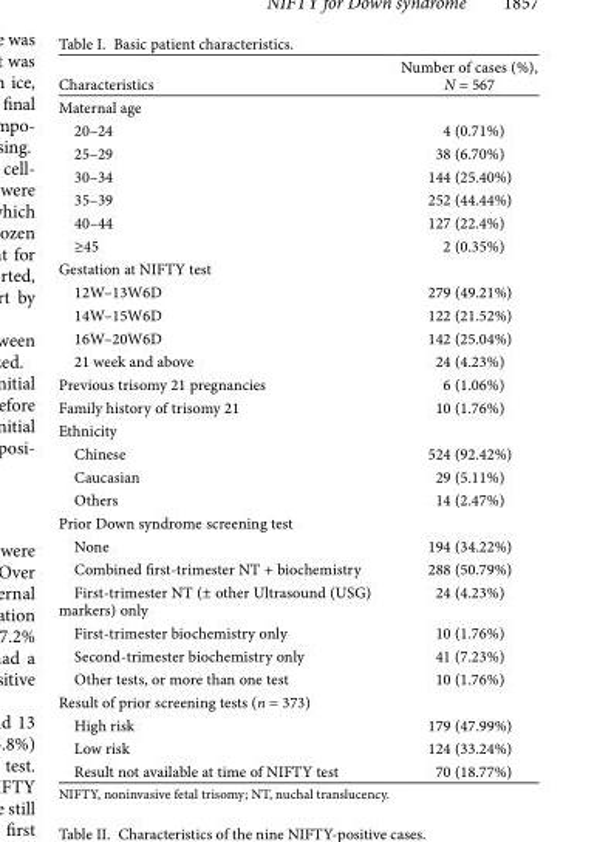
<table><thead><tr><td>Characteristics</td><td>Number of cases (%), N = 567</td></tr></thead><tbody><tr><td colspan="2">Maternal age</td></tr><tr><td>20–24</td><td>4 (0.71%)</td></tr><tr><td>25–29</td><td>38 (6.70%)</td></tr><tr><td>30–34</td><td>144 (25.40%)</td></tr><tr><td>35–39</td><td>252 (44.44%)</td></tr><tr><td>40–44</td><td>127 (22.4%)</td></tr><tr><td>≥45</td><td>2 (0.35%)</td></tr><tr><td colspan="2">Gestation at NIFTY test</td></tr><tr><td>12W–13W6D</td><td>279 (49.21%)</td></tr><tr><td>14W–15W6D</td><td>122 (21.52%)</td></tr><tr><td>16W–20W6D</td><td>142 (25.04%)</td></tr><tr><td>21 week and above</td><td>24 (4.23%)</td></tr><tr><td>Previous trisomy 21 pregnancies</td><td>6 (1.06%)</td></tr><tr><td>Family history of trisomy 21</td><td>10 (1.76%)</td></tr><tr><td colspan="2">Ethnicity</td></tr><tr><td>Chinese</td><td>524 (92.42%)</td></tr><tr><td>Caucasian</td><td>29 (5.11%)</td></tr><tr><td>Others</td><td>14 (2.47%)</td></tr><tr><td colspan="2">Prior Down syndrome screening test</td></tr><tr><td>None</td><td>194 (34.22%)</td></tr><tr><td>Combined first-trimester NT + biochemistry</td><td>288 (50.79%)</td></tr><tr><td>First-trimester NT (± other Ultrasound (USG) markers) only</td><td>24 (4.23%)</td></tr><tr><td>First-trimester biochemistry only</td><td>10 (1.76%)</td></tr><tr><td>Second-trimester biochemistry only</td><td>41 (7.23%)</td></tr><tr><td>Other tests, or more than one test</td><td>10 (1.76%)</td></tr><tr><td colspan="2">Result of prior screening tests (n = 373)</td></tr><tr><td>High risk</td><td>179 (47.99%)</td></tr><tr><td>Low risk</td><td>124 (33.24%)</td></tr><tr><td>Result not available at time of NIFTY test</td><td>70 (18.77%)</td></tr></tbody></table>